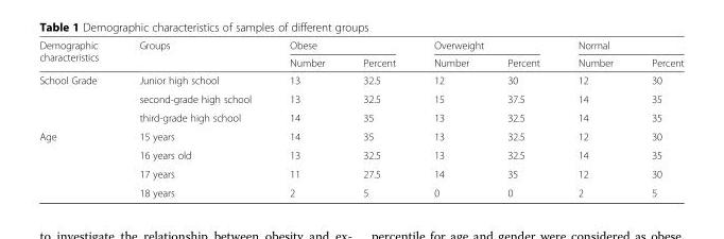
<table><thead><tr><td rowspan="2">Demographic characteristics</td><td rowspan="2">Groups</td><td colspan="2">Obese</td><td colspan="2">Overweight</td><td colspan="2">Normal</td></tr><tr><td>Number</td><td>Percent</td><td>Number</td><td>Percent</td><td>Number</td><td>Percent</td></tr></thead><tbody><tr><td rowspan="3">School Grade</td><td>Junior high school</td><td>13</td><td>32.5</td><td>12</td><td>30</td><td>12</td><td>30</td></tr><tr><td>second-grade high school</td><td>13</td><td>32.5</td><td>15</td><td>37.5</td><td>14</td><td>35</td></tr><tr><td>third-grade high school</td><td>14</td><td>35</td><td>13</td><td>32.5</td><td>14</td><td>35</td></tr><tr><td rowspan="4">Age</td><td>15 years</td><td>14</td><td>35</td><td>13</td><td>32.5</td><td>12</td><td>30</td></tr><tr><td>16 years old</td><td>13</td><td>32.5</td><td>13</td><td>32.5</td><td>14</td><td>35</td></tr><tr><td>17 years</td><td>11</td><td>27.5</td><td>14</td><td>35</td><td>12</td><td>30</td></tr><tr><td>18 years</td><td>2</td><td>5</td><td>0</td><td>0</td><td>2</td><td>5</td></tr></tbody></table>